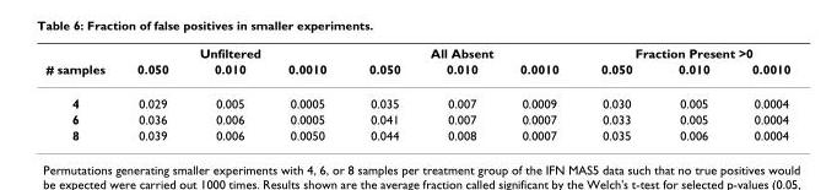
<table><thead><tr><td rowspan="2"># samples</td><td colspan="3">Unfiltered</td><td colspan="3">All Absent</td><td colspan="3">Fraction Present &gt;0</td></tr><tr><td>0.050</td><td>0.010</td><td>0.0010</td><td>0.050</td><td>0.010</td><td>0.0010</td><td>0.050</td><td>0.010</td><td>0.0010</td></tr></thead><tbody><tr><td>4</td><td>0.029</td><td>0.005</td><td>0.0005</td><td>0.035</td><td>0.007</td><td>0.0009</td><td>0.030</td><td>0.005</td><td>0.0004</td></tr><tr><td>6</td><td>0.036</td><td>0.006</td><td>0.0005</td><td>0.041</td><td>0.007</td><td>0.0007</td><td>0.033</td><td>0.005</td><td>0.0004</td></tr><tr><td>8</td><td>0.039</td><td>0.006</td><td>0.0050</td><td>0.044</td><td>0.008</td><td>0.0007</td><td>0.035</td><td>0.006</td><td>0.0004</td></tr></tbody></table>